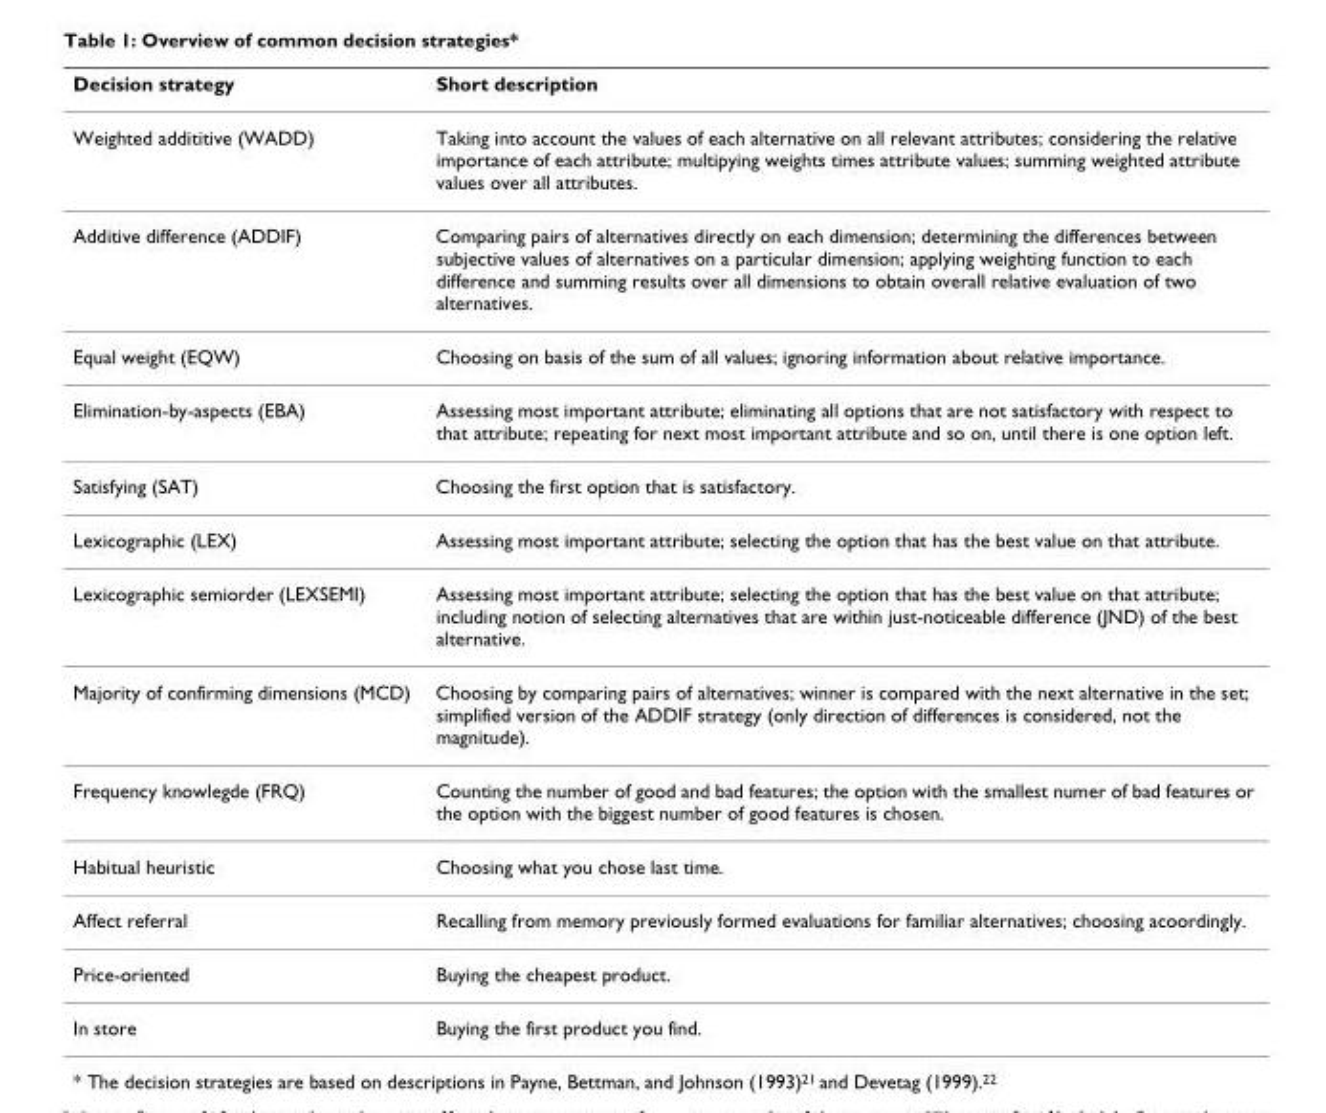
<table><thead><tr><td>Decision strategy</td><td>Short description</td></tr></thead><tbody><tr><td>Weighted addititive (WADD)</td><td>Taking into account the values of each alternative on all relevant attributes; considering the relative importance of each attribute; multipying weights times attribute values; summing weighted attribute values over all attributes.</td></tr><tr><td>Additive difference (ADDIF)</td><td>Comparing pairs of alternatives directly on each dimension; determining the differences between subjective values of alternatives on a particular dimension; applying weighting function to each difference and summing results over all dimensions to obtain overall relative evaluation of two alternatives.</td></tr><tr><td>Equal weight (EQW)</td><td>Choosing on basis of the sum of all values; ignoring information about relative importance.</td></tr><tr><td>Elimination-by-aspects (EBA)</td><td>Assessing most important attribute; eliminating all options that are not satisfactory with respect to that attribute; repeating for next most important attribute and so on, until there is one option left.</td></tr><tr><td>Satisfying (SAT)</td><td>Choosing the first option that is satisfactory.</td></tr><tr><td>Lexicographic (LEX)</td><td>Assessing most important attribute; selecting the option that has the best value on that attribute.</td></tr><tr><td>Lexicographic semiorder (LEXSEMI)</td><td>Assessing most important attribute; selecting the option that has the best value on that attribute; including notion of selecting alternatives that are within just-noticeable difference (JND) of the best alternative.</td></tr><tr><td>Majority of confirming dimensions (MCD)</td><td>Choosing by comparing pairs of alternatives; winner is compared with the next alternative in the set; simplified version of the ADDIF strategy (only direction of differences is considered, not the magnitude).</td></tr><tr><td>Frequency knowlegde (FRQ)</td><td>Counting the number of good and bad features; the option with the smallest numer of bad features or the option with the biggest number of good features is chosen.</td></tr><tr><td>Habitual heuristic</td><td>Choosing what you chose last time.</td></tr><tr><td>Affect referral</td><td>Recalling from memory previously formed evaluations for familiar alternatives; choosing acoordingly.</td></tr><tr><td>Price-oriented</td><td>Buying the cheapest product.</td></tr><tr><td>In store</td><td>Buying the first product you find.</td></tr></tbody></table>